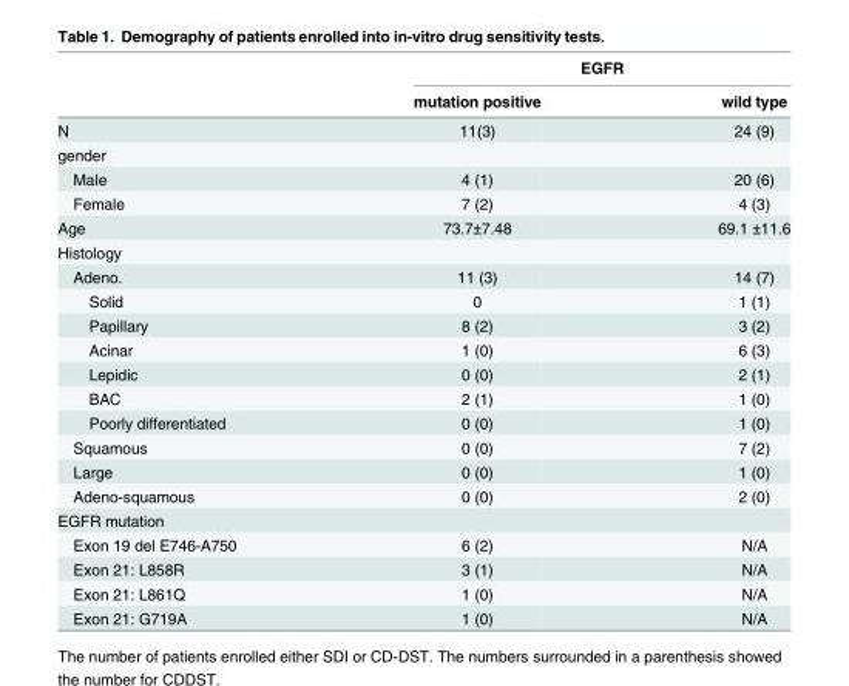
<table><thead><tr><td rowspan="2"></td><td colspan="2">EGFR</td></tr><tr><td>mutation positive</td><td>wild type</td></tr></thead><tbody><tr><td>N</td><td>11(3)</td><td>24 (9)</td></tr><tr><td colspan="3">gender</td></tr><tr><td>Male</td><td>4 (1)</td><td>20 (6)</td></tr><tr><td>Female</td><td>7 (2)</td><td>4 (3)</td></tr><tr><td>Age</td><td>73.7±7.48</td><td>69.1 ±11.6</td></tr><tr><td colspan="3">Histology</td></tr><tr><td>Adeno.</td><td>11 (3)</td><td>14 (7)</td></tr><tr><td>Solid</td><td>0</td><td>1 (1)</td></tr><tr><td>Papillary</td><td>8 (2)</td><td>3 (2)</td></tr><tr><td>Acinar</td><td>1 (0)</td><td>6 (3)</td></tr><tr><td>Lepidic</td><td>0 (0)</td><td>2 (1)</td></tr><tr><td>BAC</td><td>2 (1)</td><td>1 (0)</td></tr><tr><td>Poorly differentiated</td><td>0 (0)</td><td>1 (0)</td></tr><tr><td>Squamous</td><td>0 (0)</td><td>7 (2)</td></tr><tr><td>Large</td><td>0 (0)</td><td>1 (0)</td></tr><tr><td>Adeno-squamous</td><td>0 (0)</td><td>2 (0)</td></tr><tr><td colspan="3">EGFR mutation</td></tr><tr><td>Exon 19 del E746-A750</td><td>6 (2)</td><td>N/A</td></tr><tr><td>Exon 21: L858R</td><td>3 (1)</td><td>N/A</td></tr><tr><td>Exon 21: L861Q</td><td>1 (0)</td><td>N/A</td></tr><tr><td>Exon 21: G719A</td><td>1 (0)</td><td>N/A</td></tr></tbody></table>